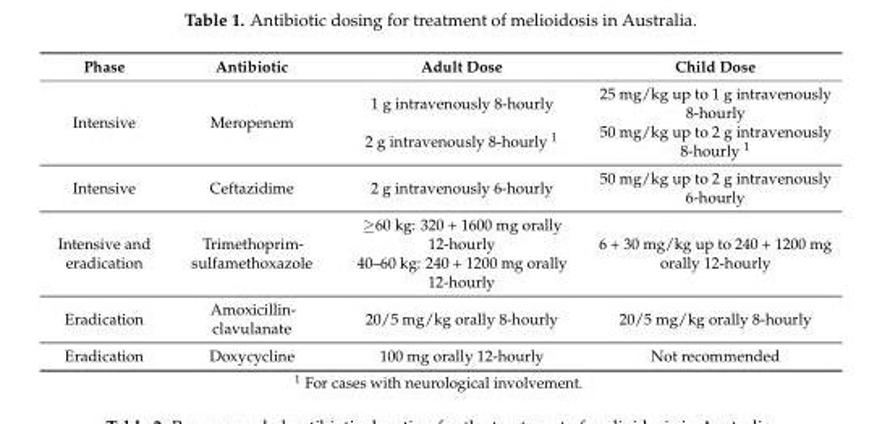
<table><thead><tr><td>Phase</td><td>Antibiotic</td><td>Adult Dose</td><td>Child Dose</td></tr></thead><tbody><tr><td>Intensive</td><td>Meropenem</td><td>1 g intravenously 8-hourly 2 g intravenously 8-hourly <sup>1</sup></td><td>25 mg/kg up to 1 g intravenously 8-hourly 50 mg/kg up to 2 g intravenously 8-hourly <sup>1</sup></td></tr><tr><td>Intensive</td><td>Ceftazidime</td><td>2 g intravenously 6-hourly</td><td>50 mg/kg up to 2 g intravenously 6-hourly</td></tr><tr><td>Intensive and eradication</td><td>Trimethoprim- sulfamethoxazole</td><td>≥60 kg: 320 + 1600 mg orally 12-hourly 40–60 kg: 240 + 1200 mg orally 12-hourly</td><td>6 + 30 mg/kg up to 240 + 1200 mg orally 12-hourly</td></tr><tr><td>Eradication</td><td>Amoxicillin- clavulanate</td><td>20/5 mg/kg orally 8-hourly</td><td>20/5 mg/kg orally 8-hourly</td></tr><tr><td>Eradication</td><td>Doxycycline</td><td>100 mg orally 12-hourly</td><td>Not recommended</td></tr></tbody></table>